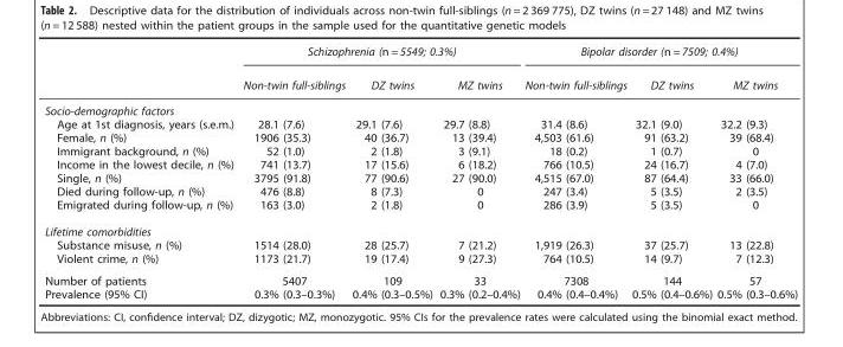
<table><thead><tr><td rowspan="2"></td><td colspan="3">Schizophrenia (n = 5549; 0.3%)</td><td colspan="3">Bipolar disorder (n = 7509; 0.4%)</td></tr><tr><td>Non-twin full-siblings</td><td>DZ twins</td><td>MZ twins</td><td>Non-twin full-siblings</td><td>DZ twins</td><td>MZ twins</td></tr></thead><tbody><tr><td colspan="7">Socio-demographic factors</td></tr><tr><td>Age at 1st diagnosis, years (s.e.m.)</td><td>28.1 (7.6)</td><td>29.1 (7.6)</td><td>29.7 (8.8)</td><td>31.4 (8.6)</td><td>32.1 (9.0)</td><td>32.2 (9.3)</td></tr><tr><td>Female, n (%)</td><td>1906 (35.3)</td><td>40 (36.7)</td><td>13 (39.4)</td><td>4,503 (61.6)</td><td>91 (63.2)</td><td>39 (68.4)</td></tr><tr><td>Immigrant background, n (%)</td><td>52 (1.0)</td><td>2 (1.8)</td><td>3 (9.1)</td><td>18 (0.2)</td><td>1 (0.7)</td><td>0</td></tr><tr><td>Income in the lowest decile, n (%)</td><td>741 (13.7)</td><td>17 (15.6)</td><td>6 (18.2)</td><td>766 (10.5)</td><td>24 (16.7)</td><td>4 (7.0)</td></tr><tr><td>Single, n (%)</td><td>3795 (91.8)</td><td>77 (90.6)</td><td>27 (90.0)</td><td>4,515 (67.0)</td><td>87 (64.4)</td><td>33 (66.0)</td></tr><tr><td>Died during follow-up, n (%)</td><td>476 (8.8)</td><td>8 (7.3)</td><td>0</td><td>247 (3.4)</td><td>5 (3.5)</td><td>2 (3.5)</td></tr><tr><td>Emigrated during follow-up, n (%)</td><td>163 (3.0)</td><td>2 (1.8)</td><td>0</td><td>286 (3.9)</td><td>5 (3.5)</td><td>0</td></tr><tr><td colspan="7">Lifetime comorbidities</td></tr><tr><td>Substance misuse, n (%)</td><td>1514 (28.0)</td><td>28 (25.7)</td><td>7 (21.2)</td><td>1,919 (26.3)</td><td>37 (25.7)</td><td>13 (22.8)</td></tr><tr><td>Violent crime, n (%)</td><td>1173 (21.7)</td><td>19 (17.4)</td><td>9 (27.3)</td><td>764 (10.5)</td><td>14 (9.7)</td><td>7 (12.3)</td></tr><tr><td>Number of patients</td><td>5407</td><td>109</td><td>33</td><td>7308</td><td>144</td><td>57</td></tr><tr><td>Prevalence (95% CI)</td><td>0.3% (0.3–0.3%)</td><td>0.4% (0.3–0.5%)</td><td>0.3% (0.2–0.4%)</td><td>0.4% (0.4–0.4%)</td><td>0.5% (0.4–0.6%)</td><td>0.5% (0.3–0.6%)</td></tr></tbody></table>